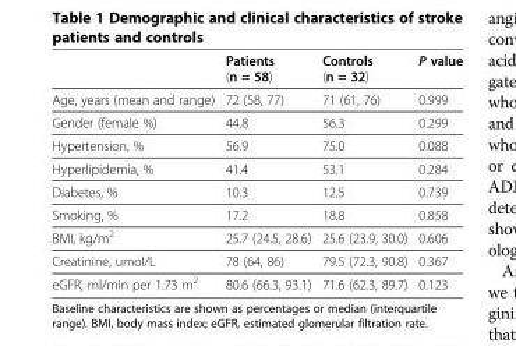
<table><thead><tr><td></td><td>Patients (n = 58)</td><td>Controls (n = 32)</td><td>P value</td></tr></thead><tbody><tr><td>Age, years (mean and range)</td><td>72 (58, 77)</td><td>71 (61, 76)</td><td>0.999</td></tr><tr><td>Gender (female %)</td><td>44.8</td><td>56.3</td><td>0.299</td></tr><tr><td>Hypertension, %</td><td>56.9</td><td>75.0</td><td>0.088</td></tr><tr><td>Hyperlipidemia, %</td><td>41.4</td><td>53.1</td><td>0.284</td></tr><tr><td>Diabetes, %</td><td>10.3</td><td>12.5</td><td>0.739</td></tr><tr><td>Smoking, %</td><td>17.2</td><td>18.8</td><td>0.858</td></tr><tr><td>BMI, kg/m<sup>2</sup></td><td>25.7 (24.5, 28.6)</td><td>25.6 (23.9, 30.0)</td><td>0.606</td></tr><tr><td>Creatinine, umol/L</td><td>78 (64, 86)</td><td>79.5 (72.3, 90.8)</td><td>0.367</td></tr><tr><td>eGFR, ml/min per 1.73 m<sup>2</sup></td><td>80.6 (66.3, 93.1)</td><td>71.6 (62.3, 89.7)</td><td>0.123</td></tr></tbody></table>